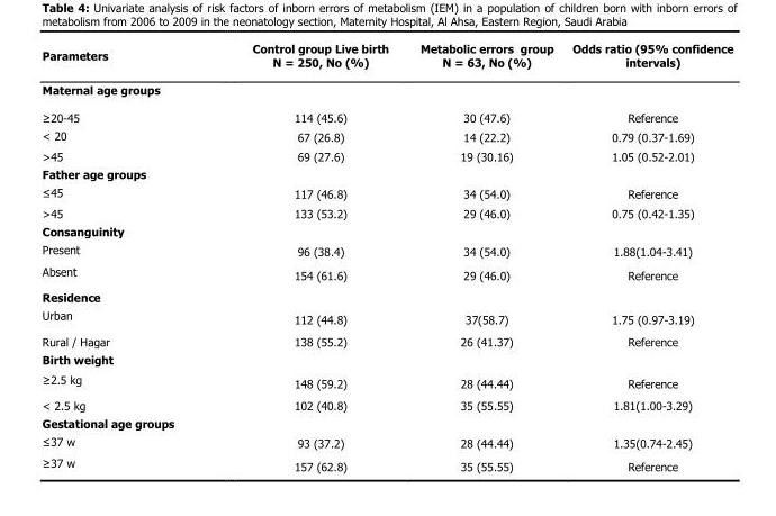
<table><thead><tr><td>Parameters</td><td>Control group Live birth N = 250, No (%)</td><td>Metabolic errors group N = 63, No (%)</td><td>Odds ratio (95% confidence intervals)</td></tr></thead><tbody><tr><td colspan="4">Maternal age groups</td></tr><tr><td>≥20-45</td><td>114 (45.6)</td><td>30 (47.6)</td><td>Reference</td></tr><tr><td>&lt; 20</td><td>67 (26.8)</td><td>14 (22.2)</td><td>0.79 (0.37-1.69)</td></tr><tr><td>&gt;45</td><td>69 (27.6)</td><td>19 (30.16)</td><td>1.05 (0.52-2.01)</td></tr><tr><td colspan="4">Father age groups</td></tr><tr><td>≤45</td><td>117 (46.8)</td><td>34 (54.0)</td><td>Reference</td></tr><tr><td>&gt;45</td><td>133 (53.2)</td><td>29 (46.0)</td><td>0.75 (0.42-1.35)</td></tr><tr><td colspan="4">Consanguinity</td></tr><tr><td>Present</td><td>96 (38.4)</td><td>34 (54.0)</td><td>1.88(1.04-3.41)</td></tr><tr><td>Absent</td><td>154 (61.6)</td><td>29 (46.0)</td><td>Reference</td></tr><tr><td colspan="4">Residence</td></tr><tr><td>Urban</td><td>112 (44.8)</td><td>37(58.7)</td><td>1.75 (0.97-3.19)</td></tr><tr><td>Rural / Hagar</td><td>138 (55.2)</td><td>26 (41.37)</td><td>Reference</td></tr><tr><td colspan="4">Birth weight</td></tr><tr><td>≥2.5 kg</td><td>148 (59.2)</td><td>28 (44.44)</td><td>Reference</td></tr><tr><td>&lt; 2.5 kg</td><td>102 (40.8)</td><td>35 (55.55)</td><td>1.81(1.00-3.29)</td></tr><tr><td colspan="4">Gestational age groups</td></tr><tr><td>≤37 w</td><td>93 (37.2)</td><td>28 (44.44)</td><td>1.35(0.74-2.45)</td></tr><tr><td>≥37 w</td><td>157 (62.8)</td><td>35 (55.55)</td><td>Reference</td></tr></tbody></table>